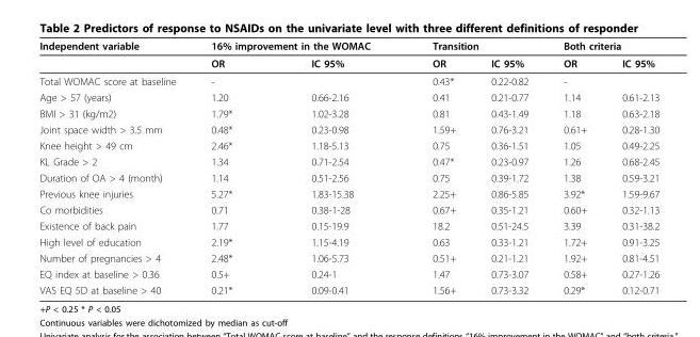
<table><thead><tr><td rowspan="2">Independent variable</td><td colspan="2">16% improvement in the WOMAC</td><td colspan="2">Transition</td><td colspan="2">Both criteria</td></tr><tr><td>OR</td><td>IC 95%</td><td>OR</td><td>IC 95%</td><td>OR</td><td>IC 95%</td></tr></thead><tbody><tr><td>Total WOMAC score at baseline</td><td>-</td><td></td><td>0.43*</td><td>0.22-0.82</td><td>-</td><td></td></tr><tr><td>Age &gt; 57 (years)</td><td>1.20</td><td>0.66-2.16</td><td>0.41</td><td>0.21-0.77</td><td>1.14</td><td>0.61-2.13</td></tr><tr><td>BMI &gt; 31 (kg/m2)</td><td>1.79*</td><td>1.02-3.28</td><td>0.81</td><td>0.43-1.49</td><td>1.18</td><td>0.63-2.18</td></tr><tr><td>Joint space width &gt; 3.5 mm</td><td>0.48*</td><td>0.23-0.98</td><td>1.59+</td><td>0.76-3.21</td><td>0.61+</td><td>0.28-1.30</td></tr><tr><td>Knee height &gt; 49 cm</td><td>2.46*</td><td>1.18-5.13</td><td>0.75</td><td>0.36-1.51</td><td>1.05</td><td>0.49-2.25</td></tr><tr><td>KL Grade &gt; 2</td><td>1.34</td><td>0.71-2.54</td><td>0.47*</td><td>0.23-0.97</td><td>1.26</td><td>0.68-2.45</td></tr><tr><td>Duration of OA &gt; 4 (month)</td><td>1.14</td><td>0.51-2.56</td><td>0.75</td><td>0.39-1.72</td><td>1.38</td><td>0.59-3.21</td></tr><tr><td>Previous knee injuries</td><td>5.27*</td><td>1.83-15.38</td><td>2.25+</td><td>0.86-5.85</td><td>3.92*</td><td>1.59-9.67</td></tr><tr><td>Co morbidities</td><td>0.71</td><td>0.38-1-28</td><td>0.67+</td><td>0.35-1.21</td><td>0.60+</td><td>0.32-1.13</td></tr><tr><td>Existence of back pain</td><td>1.77</td><td>0.15-19.9</td><td>18.2</td><td>0.51-24.5</td><td>3.39</td><td>0.31-38.2</td></tr><tr><td>High level of education</td><td>2.19*</td><td>1.15-4.19</td><td>0.63</td><td>0.33-1.21</td><td>1.72+</td><td>0.91-3.25</td></tr><tr><td>Number of pregnancies &gt; 4</td><td>2.48*</td><td>1.06-5.73</td><td>0.51+</td><td>0.21-1.21</td><td>1.92+</td><td>0.81-4.51</td></tr><tr><td>EQ index at baseline &gt; 0.36</td><td>0.5+</td><td>0.24-1</td><td>1.47</td><td>0.73-3.07</td><td>0.58+</td><td>0.27-1.26</td></tr><tr><td>VAS EQ 5D at baseline &gt; 40</td><td>0.21*</td><td>0.09-0.41</td><td>1.56+</td><td>0.73-3.32</td><td>0.29*</td><td>0.12-0.71</td></tr></tbody></table>